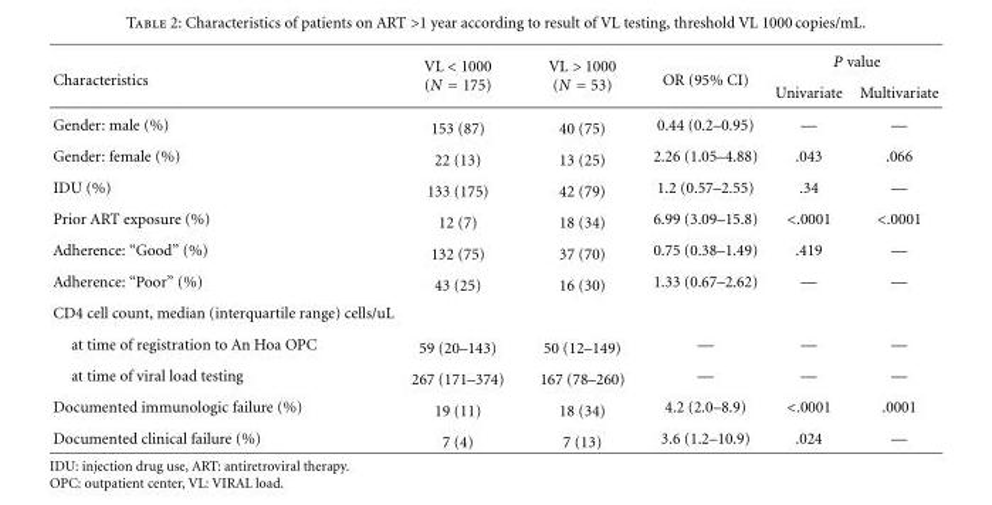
<table><thead><tr><td rowspan="2">Characteristics</td><td rowspan="2">VL &lt; 1000 (N = 175)</td><td rowspan="2">VL &gt; 1000 (N = 53)</td><td rowspan="2">OR (95% CI)</td><td colspan="2">P value</td></tr><tr><td>Univariate</td><td>Multivariate</td></tr></thead><tbody><tr><td>Gender: male (%)</td><td>153 (87)</td><td>40 (75)</td><td>0.44 (0.2–0.95)</td><td>—</td><td>—</td></tr><tr><td>Gender: female (%)</td><td>22 (13)</td><td>13 (25)</td><td>2.26 (1.05–4.88)</td><td>.043</td><td>.066</td></tr><tr><td>IDU (%)</td><td>133 (175)</td><td>42 (79)</td><td>1.2 (0.57–2.55)</td><td>.34</td><td>—</td></tr><tr><td>Prior ART exposure (%)</td><td>12 (7)</td><td>18 (34)</td><td>6.99 (3.09–15.8)</td><td>&lt;.0001</td><td>&lt;.0001</td></tr><tr><td>Adherence: “Good” (%)</td><td>132 (75)</td><td>37 (70)</td><td>0.75 (0.38–1.49)</td><td>.419</td><td>—</td></tr><tr><td>Adherence: “Poor” (%)</td><td>43 (25)</td><td>16 (30)</td><td>1.33 (0.67–2.62)</td><td>—</td><td>—</td></tr><tr><td colspan="6">CD4 cell count, median (interquartile range) cells/uL</td></tr><tr><td>at time of registration to An Hoa OPC</td><td>59 (20–143)</td><td>50 (12–149)</td><td>—</td><td>—</td><td>—</td></tr><tr><td>at time of viral load testing</td><td>267 (171–374)</td><td>167 (78–260)</td><td>—</td><td>—</td><td>—</td></tr><tr><td>Documented immunologic failure (%)</td><td>19 (11)</td><td>18 (34)</td><td>4.2 (2.0–8.9)</td><td>&lt;.0001</td><td>.0001</td></tr><tr><td>Documented clinical failure (%)</td><td>7 (4)</td><td>7 (13)</td><td>3.6 (1.2–10.9)</td><td>.024</td><td>—</td></tr></tbody></table>